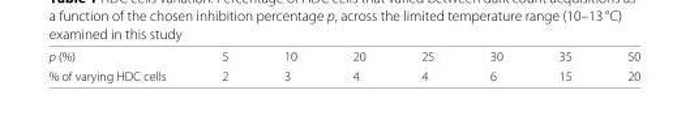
<table><tbody><tr><td>p (%)</td><td>5</td><td>10</td><td>20</td><td>25</td><td>30</td><td>35</td><td>50</td></tr><tr><td>% of varying HDC cells</td><td>2</td><td>3</td><td>4</td><td>4</td><td>6</td><td>15</td><td>20</td></tr></tbody></table>